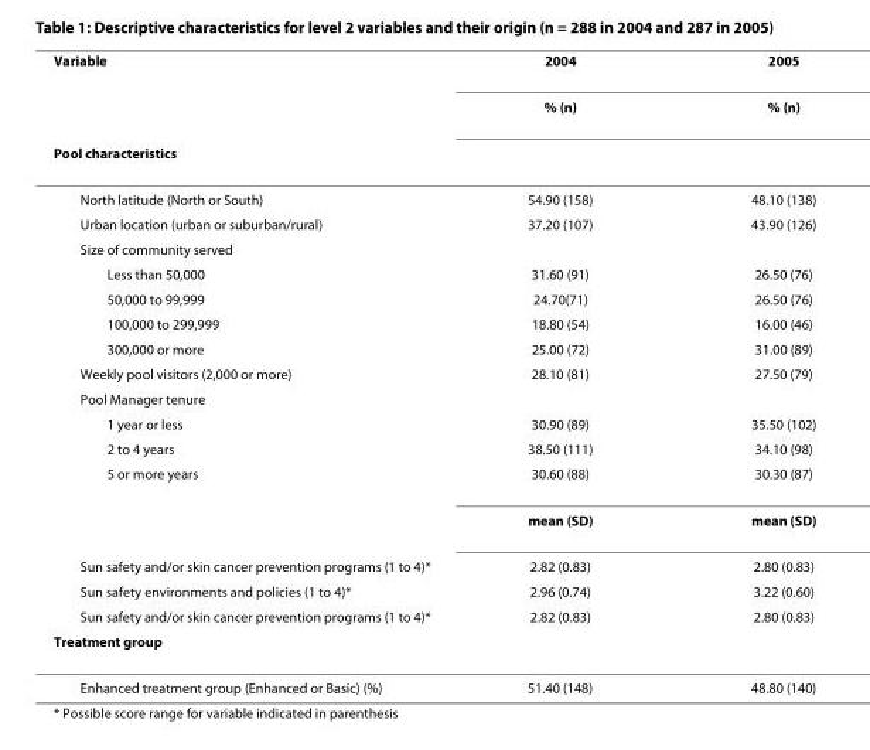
<table><thead><tr><td rowspan="3">Variable Pool characteristics</td><td rowspan="3">2004 % (n)</td><td rowspan="3">2005 % (n)</td></tr><tr></tr><tr></tr></thead><tbody><tr><td>North latitude (North or South)</td><td>54.90 (158)</td><td>48.10 (138)</td></tr><tr><td>Urban location (urban or suburban/rural)</td><td>37.20 (107)</td><td>43.90 (126)</td></tr><tr><td colspan="3">Size of community served</td></tr><tr><td>Less than 50,000</td><td>31.60 (91)</td><td>26.50 (76)</td></tr><tr><td>50,000 to 99,999</td><td>24.70(71)</td><td>26.50 (76)</td></tr><tr><td>100,000 to 299,999</td><td>18.80 (54)</td><td>16.00 (46)</td></tr><tr><td>300,000 or more</td><td>25.00 (72)</td><td>31.00 (89)</td></tr><tr><td>Weekly pool visitors (2,000 or more)</td><td>28.10 (81)</td><td>27.50 (79)</td></tr><tr><td colspan="3">Pool Manager tenure</td></tr><tr><td>1 year or less</td><td>30.90 (89)</td><td>35.50 (102)</td></tr><tr><td>2 to 4 years</td><td>38.50 (111)</td><td>34.10 (98)</td></tr><tr><td rowspan="2">5 or more years</td><td>30.60 (88)</td><td>30.30 (87)</td></tr><tr><td>mean (SD)</td><td>mean (SD)</td></tr><tr><td>Sun safety and/or skin cancer prevention programs (1 to 4)*</td><td>2.82 (0.83)</td><td>2.80 (0.83)</td></tr><tr><td>Sun safety environments and policies (1 to 4)*</td><td>2.96 (0.74)</td><td>3.22 (0.60)</td></tr><tr><td>Sun safety and/or skin cancer prevention programs (1 to 4)*</td><td>2.82 (0.83)</td><td>2.80 (0.83)</td></tr><tr><td colspan="3">Treatment group</td></tr><tr><td>Enhanced treatment group (Enhanced or Basic) (%)</td><td>51.40 (148)</td><td>48.80 (140)</td></tr></tbody></table>